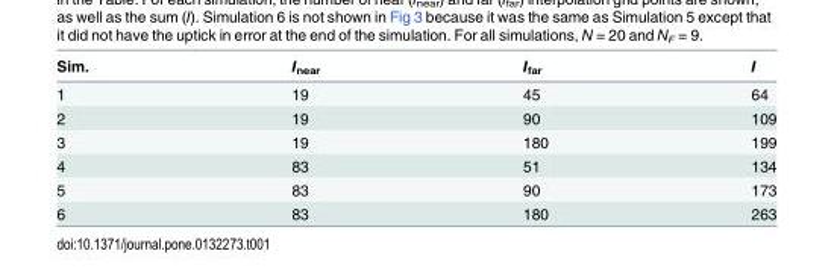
<table><thead><tr><td>Sim.</td><td>I<sub>near</sub></td><td>I<sub>far</sub></td><td>I</td></tr></thead><tbody><tr><td>1</td><td>19</td><td>45</td><td>64</td></tr><tr><td>2</td><td>19</td><td>90</td><td>109</td></tr><tr><td>3</td><td>19</td><td>180</td><td>199</td></tr><tr><td>4</td><td>83</td><td>51</td><td>134</td></tr><tr><td>5</td><td>83</td><td>90</td><td>173</td></tr><tr><td>6</td><td>83</td><td>180</td><td>263</td></tr></tbody></table>